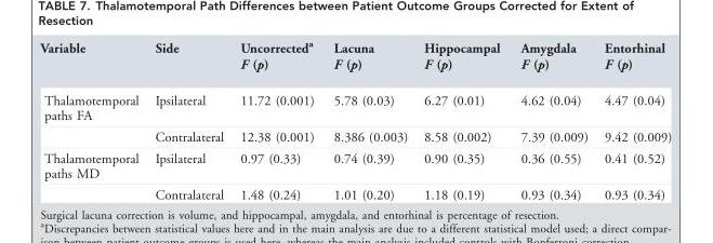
<table><thead><tr><td>Variable</td><td>Side</td><td>Uncorrected<sup>a</sup> F (p)</td><td>Lacuna F (p)</td><td>Hippocampal F (p)</td><td>Amygdala F (p)</td><td>Entorhinal F (p)</td></tr></thead><tbody><tr><td rowspan="2">Thalamotemporal paths FA</td><td>Ipsilateral</td><td>11.72 (0.001)</td><td>5.78 (0.03)</td><td>6.27 (0.01)</td><td>4.62 (0.04)</td><td>4.47 (0.04)</td></tr><tr><td>Contralateral</td><td>12.38 (0.001)</td><td>8.386 (0.003)</td><td>8.58 (0.002)</td><td>7.39 (0.009)</td><td>9.42 (0.009)</td></tr><tr><td rowspan="2">Thalamotemporal paths MD</td><td>Ipsilateral</td><td>0.97 (0.33)</td><td>0.74 (0.39)</td><td>0.90 (0.35)</td><td>0.36 (0.55)</td><td>0.41 (0.52)</td></tr><tr><td>Contralateral</td><td>1.48 (0.24)</td><td>1.01 (0.20)</td><td>1.18 (0.19)</td><td>0.93 (0.34)</td><td>0.93 (0.34)</td></tr></tbody></table>